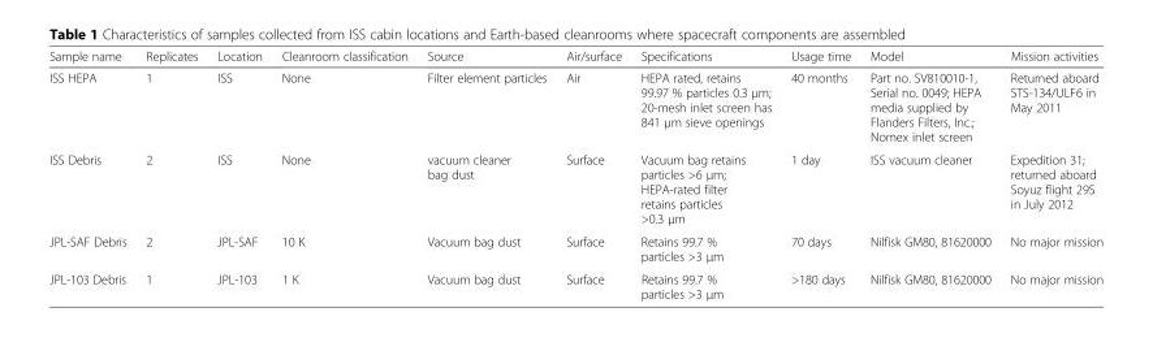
<table><thead><tr><td>Sample name</td><td>Replicates</td><td>Location</td><td>Cleanroom classification</td><td>Source</td><td>Air/surface</td><td>Specifications</td><td>Usage time</td><td>Model</td><td>Mission activities</td></tr></thead><tbody><tr><td>ISS HEPA</td><td>1</td><td>ISS</td><td>None</td><td>Filter element particles</td><td>Air</td><td>HEPA rated, retains 99.97 % particles 0.3 μm; 20-mesh inlet screen has 841 μm sieve openings</td><td>40 months</td><td>Part no. SV810010-1, Serial no. 0049; HEPA media supplied by Flanders Filters, Inc.; Nomex inlet screen</td><td>Returned aboard STS-134/ULF6 in May 2011</td></tr><tr><td>ISS Debris</td><td>2</td><td>ISS</td><td>None</td><td>vacuum cleaner bag dust</td><td>Surface</td><td>Vacuum bag retains particles &gt;6 μm; HEPA-rated filter retains particles &gt;0.3 μm</td><td>1 day</td><td>ISS vacuum cleaner</td><td>Expedition 31; returned aboard Soyuz flight 29S in July 2012</td></tr><tr><td>JPL-SAF Debris</td><td>2</td><td>JPL-SAF</td><td>10 K</td><td>Vacuum bag dust</td><td>Surface</td><td>Retains 99.7 % particles &gt;3 μm</td><td>70 days</td><td>Nilfisk GM80, 81620000</td><td>No major mission</td></tr><tr><td>JPL-103 Debris</td><td>1</td><td>JPL-103</td><td>1 K</td><td>Vacuum bag dust</td><td>Surface</td><td>Retains 99.7 % particles &gt;3 μm</td><td>&gt;180 days</td><td>Nilfisk GM80, 81620000</td><td>No major mission</td></tr></tbody></table>